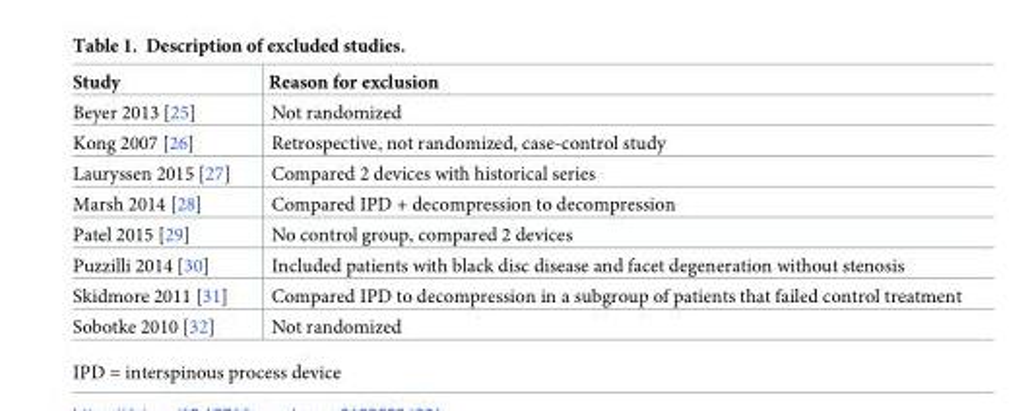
<table><thead><tr><td>Study</td><td>Reason for exclusion</td></tr></thead><tbody><tr><td>Beyer 2013 [25]</td><td>Not randomized</td></tr><tr><td>Kong 2007 [26]</td><td>Retrospective, not randomized, case-control study</td></tr><tr><td>Lauryssen 2015 [27]</td><td>Compared 2 devices with historical series</td></tr><tr><td>Marsh 2014 [28]</td><td>Compared IPD + decompression to decompression</td></tr><tr><td>Patel 2015 [29]</td><td>No control group, compared 2 devices</td></tr><tr><td>Puzzilli 2014 [30]</td><td>Included patients with black disc disease and facet degeneration without stenosis</td></tr><tr><td>Skidmore 2011 [31]</td><td>Compared IPD to decompression in a subgroup of patients that failed control treatment</td></tr><tr><td>Sobotke 2010 [32]</td><td>Not randomized</td></tr></tbody></table>